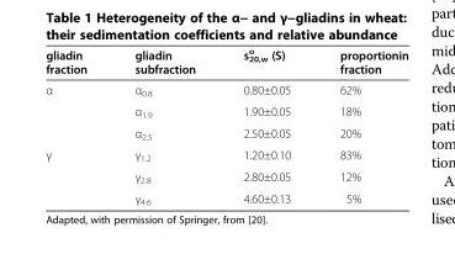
<table><thead><tr><td>gliadin fraction</td><td>gliadin subfraction</td><td>s<sup>o</sup> <sub>20,w</sub> (S)</td><td>proportionin fraction</td></tr></thead><tbody><tr><td rowspan="3">α</td><td>α<sub>0.8</sub></td><td>0.80±0.05</td><td>62%</td></tr><tr><td>α<sub>1.9</sub></td><td>1.90±0.05</td><td>18%</td></tr><tr><td>α<sub>2.5</sub></td><td>2.50±0.05</td><td>20%</td></tr><tr><td rowspan="3">γ</td><td>γ<sub>1.2</sub></td><td>1.20±0.10</td><td>83%</td></tr><tr><td>γ<sub>2.8</sub></td><td>2.80±0.05</td><td>12%</td></tr><tr><td>γ<sub>4.6</sub></td><td>4.60±0.13</td><td>5%</td></tr></tbody></table>